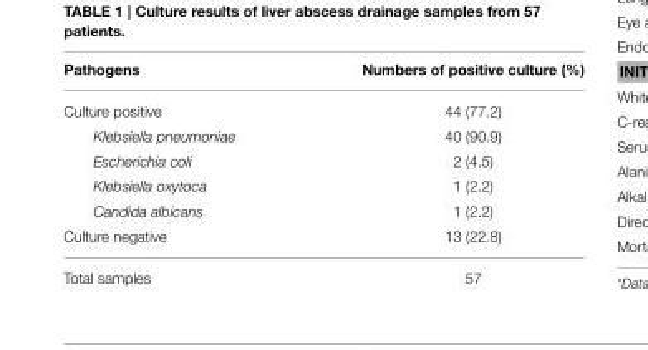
<table><thead><tr><td>Pathogens</td><td>Numbers of positive culture (%)</td></tr></thead><tbody><tr><td>Culture positive</td><td>44 (77.2)</td></tr><tr><td>Klebsiella pneumoniae</td><td>40 (90.9)</td></tr><tr><td>Escherichia coli</td><td>2 (4.5)</td></tr><tr><td>Klebsiella oxytoca</td><td>1 (2.2)</td></tr><tr><td>Candida albicans</td><td>1 (2.2)</td></tr><tr><td>Culture negative</td><td>13 (22.8)</td></tr><tr><td>Total samples</td><td>57</td></tr></tbody></table>